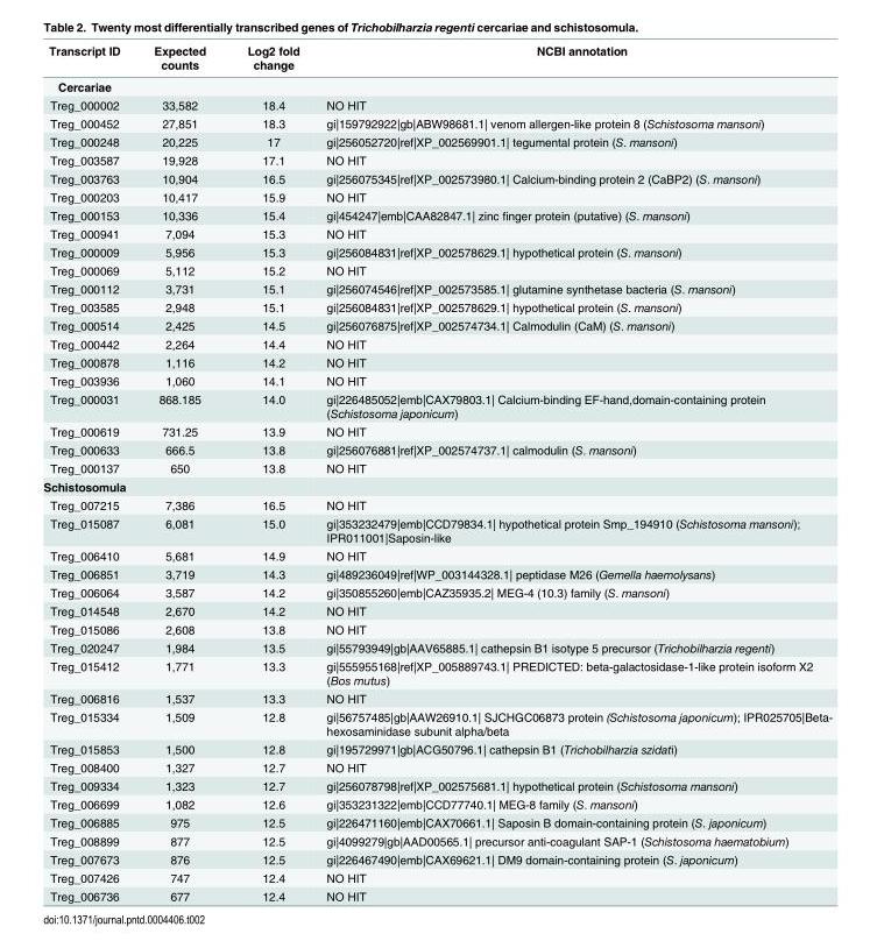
<table><thead><tr><td>Transcript ID</td><td>Expected counts</td><td>Log2 fold change</td><td>NCBI annotation</td></tr></thead><tbody><tr><td colspan="4">Cercariae</td></tr><tr><td>Treg_000002</td><td>33,582</td><td>18.4</td><td>NO HIT</td></tr><tr><td>Treg_000452</td><td>27,851</td><td>18.3</td><td>gi|159792922|gb|ABW98681.1| venom allergen-like protein 8 (Schistosoma mansoni)</td></tr><tr><td>Treg_000248</td><td>20,225</td><td>17</td><td>gi|256052720|ref|XP_002569901.1| tegumental protein (S. mansoni)</td></tr><tr><td>Treg_003587</td><td>19,928</td><td>17.1</td><td>NO HIT</td></tr><tr><td>Treg_003763</td><td>10,904</td><td>16.5</td><td>gi|256075345|ref|XP_002573980.1| Calcium-binding protein 2 (CaBP2) (S. mansoni)</td></tr><tr><td>Treg_000203</td><td>10,417</td><td>15.9</td><td>NO HIT</td></tr><tr><td>Treg_000153</td><td>10,336</td><td>15.4</td><td>gi|454247|emb|CAA82847.1| zinc finger protein (putative) (S. mansoni)</td></tr><tr><td>Treg_000941</td><td>7,094</td><td>15.3</td><td>NO HIT</td></tr><tr><td>Treg_000009</td><td>5,956</td><td>15.3</td><td>gi|256084831|ref|XP_002578629.1| hypothetical protein (S. mansoni)</td></tr><tr><td>Treg_000069</td><td>5,112</td><td>15.2</td><td>NO HIT</td></tr><tr><td>Treg_000112</td><td>3,731</td><td>15.1</td><td>gi|256074546|ref|XP_002573585.1| glutamine synthetase bacteria (S. mansoni)</td></tr><tr><td>Treg_003585</td><td>2,948</td><td>15.1</td><td>gi|256084831|ref|XP_002578629.1| hypothetical protein (S. mansoni)</td></tr><tr><td>Treg_000514</td><td>2,425</td><td>14.5</td><td>gi|256076875|ref|XP_002574734.1| Calmodulin (CaM) (S. mansoni)</td></tr><tr><td>Treg_000442</td><td>2,264</td><td>14.4</td><td>NO HIT</td></tr><tr><td>Treg_000878</td><td>1,116</td><td>14.2</td><td>NO HIT</td></tr><tr><td>Treg_003936</td><td>1,060</td><td>14.1</td><td>NO HIT</td></tr><tr><td>Treg_000031</td><td>868.185</td><td>14.0</td><td>gi|226485052|emb|CAX79803.1| Calcium-binding EF-hand,domain-containing protein (Schistosoma japonicum)</td></tr><tr><td>Treg_000619</td><td>731.25</td><td>13.9</td><td>NO HIT</td></tr><tr><td>Treg_000633</td><td>666.5</td><td>13.8</td><td>gi|256076881|ref|XP_002574737.1| calmodulin (S. mansoni)</td></tr><tr><td>Treg_000137</td><td>650</td><td>13.8</td><td>NO HIT</td></tr><tr><td colspan="4">Schistosomula</td></tr><tr><td>Treg_007215</td><td>7,386</td><td>16.5</td><td>NO HIT</td></tr><tr><td>Treg_015087</td><td>6,081</td><td>15.0</td><td>gi|353232479|emb|CCD79834.1| hypothetical protein Smp_194910 (Schistosoma mansoni); IPR011001|Saposin-like</td></tr><tr><td>Treg_006410</td><td>5,681</td><td>14.9</td><td>NO HIT</td></tr><tr><td>Treg_006851</td><td>3,719</td><td>14.3</td><td>gi|489236049|ref|WP_003144328.1| peptidase M26 (Gemella haemolysans)</td></tr><tr><td>Treg_006064</td><td>3,587</td><td>14.2</td><td>gi|350855260|emb|CAZ35935.2| MEG-4 (10.3) family (S. mansoni)</td></tr><tr><td>Treg_014548</td><td>2,670</td><td>14.2</td><td>NO HIT</td></tr><tr><td>Treg_015086</td><td>2,608</td><td>13.8</td><td>NO HIT</td></tr><tr><td>Treg_020247</td><td>1,984</td><td>13.5</td><td>gi|55793949|gb|AAV65885.1| cathepsin B1 isotype 5 precursor (Trichobilharzia regenti)</td></tr><tr><td>Treg_015412</td><td>1,771</td><td>13.3</td><td>gi|555955168|ref|XP_005889743.1| PREDICTED: beta-galactosidase-1-like protein isoform X2 (Bos mutus)</td></tr><tr><td>Treg_006816</td><td>1,537</td><td>13.3</td><td>NO HIT</td></tr><tr><td>Treg_015334</td><td>1,509</td><td>12.8</td><td>gi|56757485|gb|AAW26910.1| SJCHGC06873 protein (Schistosoma japonicum); IPR025705|Beta- hexosaminidase subunit alpha/beta</td></tr><tr><td>Treg_015853</td><td>1,500</td><td>12.8</td><td>gi|195729971|gb|ACG50796.1| cathepsin B1 (Trichobilharzia szidati)</td></tr><tr><td>Treg_008400</td><td>1,327</td><td>12.7</td><td>NO HIT</td></tr><tr><td>Treg_009334</td><td>1,323</td><td>12.7</td><td>gi|256078798|ref|XP_002575681.1| hypothetical protein (Schistosoma mansoni)</td></tr><tr><td>Treg_006699</td><td>1,082</td><td>12.6</td><td>gi|353231322|emb|CCD77740.1| MEG-8 family (S. mansoni)</td></tr><tr><td>Treg_006885</td><td>975</td><td>12.5</td><td>gi|226471160|emb|CAX70661.1| Saposin B domain-containing protein (S. japonicum)</td></tr><tr><td>Treg_008899</td><td>877</td><td>12.5</td><td>gi|4099279|gb|AAD00565.1| precursor anti-coagulant SAP-1 (Schistosoma haematobium)</td></tr><tr><td>Treg_007673</td><td>876</td><td>12.5</td><td>gi|226467490|emb|CAX69621.1| DM9 domain-containing protein (S. japonicum)</td></tr><tr><td>Treg_007426</td><td>747</td><td>12.4</td><td>NO HIT</td></tr><tr><td>Treg_006736</td><td>677</td><td>12.4</td><td>NO HIT</td></tr></tbody></table>